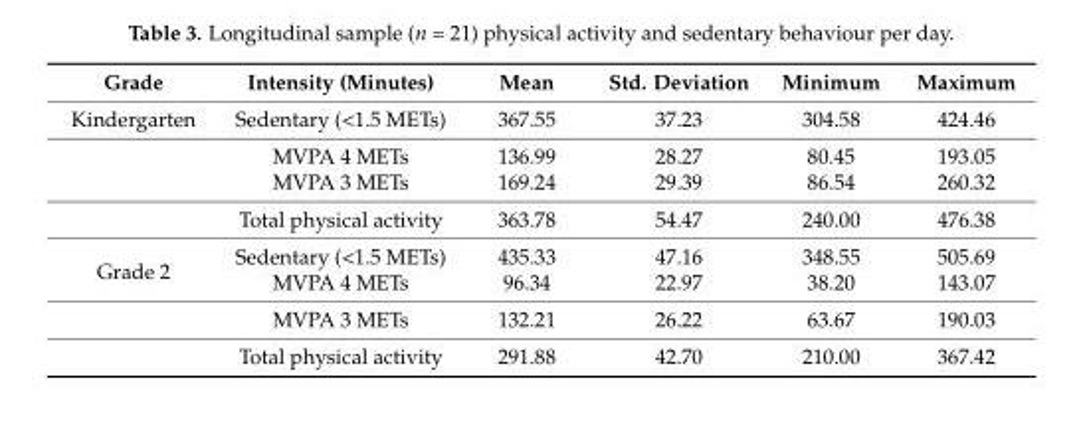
<table><thead><tr><td>Grade</td><td>Intensity (Minutes)</td><td>Mean</td><td>Std. Deviation</td><td>Minimum</td><td>Maximum</td></tr></thead><tbody><tr><td rowspan="4">Kindergarten</td><td>Sedentary (&lt;1.5 METs)</td><td>367.55</td><td>37.23</td><td>304.58</td><td>424.46</td></tr><tr><td>MVPA 4 METs</td><td>136.99</td><td>28.27</td><td>80.45</td><td>193.05</td></tr><tr><td>MVPA 3 METs</td><td>169.24</td><td>29.39</td><td>86.54</td><td>260.32</td></tr><tr><td>Total physical activity</td><td>363.78</td><td>54.47</td><td>240.00</td><td>476.38</td></tr><tr><td rowspan="4">Grade 2</td><td>Sedentary (&lt;1.5 METs)</td><td>435.33</td><td>47.16</td><td>348.55</td><td>505.69</td></tr><tr><td>MVPA 4 METs</td><td>96.34</td><td>22.97</td><td>38.20</td><td>143.07</td></tr><tr><td>MVPA 3 METs</td><td>132.21</td><td>26.22</td><td>63.67</td><td>190.03</td></tr><tr><td>Total physical activity</td><td>291.88</td><td>42.70</td><td>210.00</td><td>367.42</td></tr></tbody></table>